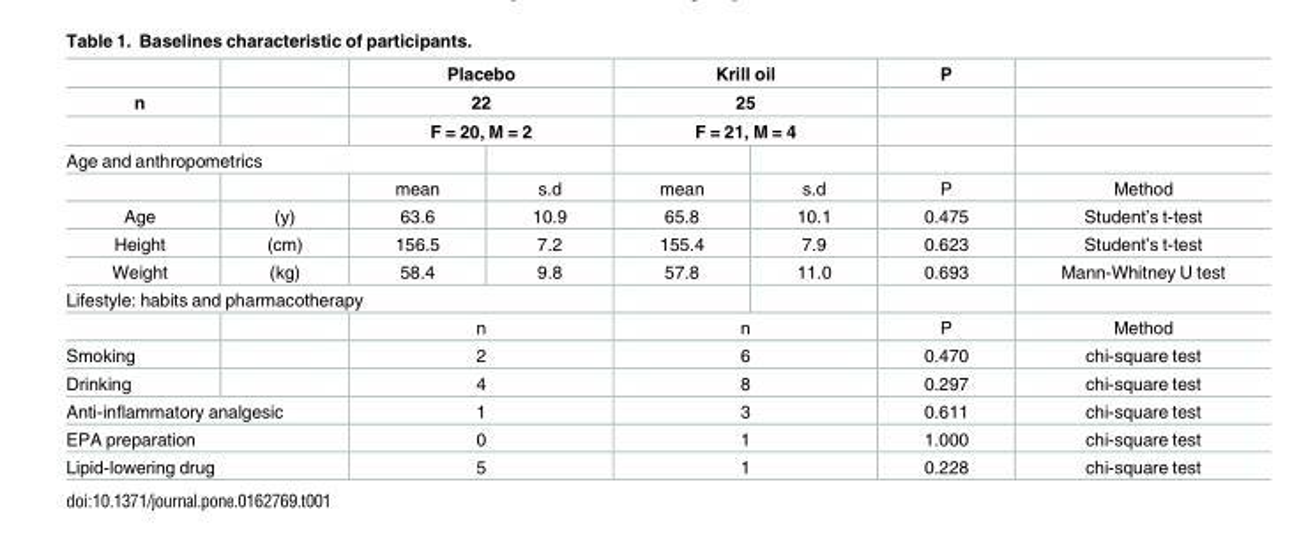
<table><thead><tr><td rowspan="3">n</td><td rowspan="3"></td><td rowspan="3" colspan="2">Placebo 22 F = 20, M = 2</td><td rowspan="3" colspan="2">Krill oil 25 F = 21, M = 4</td><td rowspan="5">P P</td><td rowspan="5">Method</td></tr><tr></tr><tr></tr><tr><td colspan="3">Age and anthropometrics</td><td rowspan="2">s.d</td><td rowspan="2">mean</td><td rowspan="2">s.d</td></tr><tr><td></td><td></td><td>mean</td></tr></thead><tbody><tr><td>Age</td><td>(y)</td><td>63.6</td><td>10.9</td><td>65.8</td><td>10.1</td><td>0.475</td><td>Student’s t-test</td></tr><tr><td>Height</td><td>(cm)</td><td>156.5</td><td>7.2</td><td>155.4</td><td>7.9</td><td>0.623</td><td>Student’s t-test</td></tr><tr><td>Weight</td><td>(kg)</td><td>58.4</td><td>9.8</td><td>57.8</td><td>11.0</td><td>0.693</td><td>Mann-Whitney U test</td></tr><tr><td colspan="8">Lifestyle: habits and pharmacotherapy</td></tr><tr><td></td><td></td><td colspan="2">n</td><td colspan="2">n</td><td>P</td><td>Method</td></tr><tr><td>Smoking</td><td></td><td colspan="2">2</td><td colspan="2">6</td><td>0.470</td><td>chi-square test</td></tr><tr><td>Drinking</td><td></td><td colspan="2">4</td><td colspan="2">8</td><td>0.297</td><td>chi-square test</td></tr><tr><td colspan="2">Anti-inflammatory analgesic</td><td colspan="2">1</td><td colspan="2">3</td><td>0.611</td><td>chi-square test</td></tr><tr><td colspan="2">EPA preparation</td><td colspan="2">0</td><td colspan="2">1</td><td>1.000</td><td>chi-square test</td></tr><tr><td colspan="2">Lipid-lowering drug</td><td colspan="2">5</td><td colspan="2">1</td><td>0.228</td><td>chi-square test</td></tr></tbody></table>